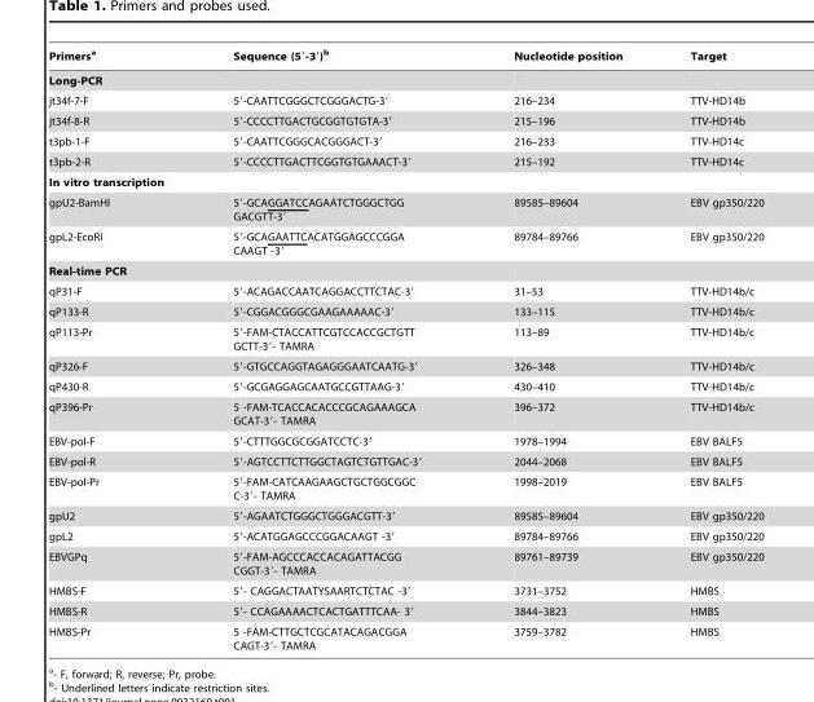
<table><thead><tr><td>Primers<sup>a</sup></td><td>Sequence (5′-3′)<sup>b</sup></td><td>Nucleotide position</td><td>Target</td></tr></thead><tbody><tr><td colspan="4">Long-PCR</td></tr><tr><td>jt34f-7-F</td><td>5′-CAATTCGGGCTCGGGACTG-3′</td><td>216–234</td><td>TTV-HD14b</td></tr><tr><td>jt34f-8-R</td><td>5′-CCCCTTGACTGCGGTGTGTA-3′</td><td>215–196</td><td>TTV-HD14b</td></tr><tr><td>t3pb-1-F</td><td>5′-CAATTCGGGCACGGGACT-3′</td><td>216–233</td><td>TTV-HD14c</td></tr><tr><td>t3pb-2-R</td><td>5′-CCCCTTGACTTCGGTGTGAAACT-3′</td><td>215–192</td><td>TTV-HD14c</td></tr><tr><td colspan="4">In vitro transcription</td></tr><tr><td>gpU2-BamHI</td><td>5′-GCAGGATCCAGAATCTGGGCTGG GACGTT-3′</td><td>89585–89604</td><td>EBV gp350/220</td></tr><tr><td>gpL2-EcoRI</td><td>5′-GCAGAATTCACATGGAGCCCGGA CAAGT -3′</td><td>89784–89766</td><td>EBV gp350/220</td></tr><tr><td colspan="4">Real-time PCR</td></tr><tr><td>qP31-F</td><td>5′-ACAGACCAATCAGGACCTTCTAC-3′</td><td>31–53</td><td>TTV-HD14b/c</td></tr><tr><td>qP133-R</td><td>5′-CGGACGGGCGAAGAAAAAC-3′</td><td>133–115</td><td>TTV-HD14b/c</td></tr><tr><td>qP113-Pr</td><td>5′-FAM-CTACCATTCGTCCACCGCTGTT GCTT-3′- TAMRA</td><td>113–89</td><td>TTV-HD14b/c</td></tr><tr><td>qP326-F</td><td>5′-GTGCCAGGTAGAGGGAATCAATG-3′</td><td>326–348</td><td>TTV-HD14b/c</td></tr><tr><td>qP430-R</td><td>5′-GCGAGGAGCAATGCCGTTAAG-3′</td><td>430–410</td><td>TTV-HD14b/c</td></tr><tr><td>qP396-Pr</td><td>5 -FAM-TCACCACACCCGCAGAAAGCA GCAT-3′- TAMRA</td><td>396–372</td><td>TTV-HD14b/c</td></tr><tr><td>EBV-pol-F</td><td>5′-CTTTGGCGCGGATCCTC-3′</td><td>1978–1994</td><td>EBV BALF5</td></tr><tr><td>EBV-pol-R</td><td>5′-AGTCCTTCTTGGCTAGTCTGTTGAC-3′</td><td>2044–2068</td><td>EBV BALF5</td></tr><tr><td>EBV-pol-Pr</td><td>5′-FAM-CATCAAGAAGCTGCTGGCGGC C-3′- TAMRA</td><td>1998–2019</td><td>EBV BALF5</td></tr><tr><td>gpU2</td><td>5′-AGAATCTGGGCTGGGACGTT-3′</td><td>89585–89604</td><td>EBV gp350/220</td></tr><tr><td>gpL2</td><td>5′-ACATGGAGCCCGGACAAGT -3′</td><td>89784–89766</td><td>EBV gp350/220</td></tr><tr><td>EBVGPq</td><td>5′-FAM-AGCCCACCACAGATTACGG CGGT-3′- TAMRA</td><td>89761–89739</td><td>EBV gp350/220</td></tr><tr><td>HMBS-F</td><td>5′- CAGGACTAATYSAARTCTCTAC -3′</td><td>3731–3752</td><td>HMBS</td></tr><tr><td>HMBS-R</td><td>5′- CCAGAAAACTCACTGATTTCAA- 3′</td><td>3844–3823</td><td>HMBS</td></tr><tr><td>HMBS-Pr</td><td>5 -FAM-CTTGCTCGCATACAGACGGA CAGT-3′- TAMRA</td><td>3759–3782</td><td>HMBS</td></tr></tbody></table>